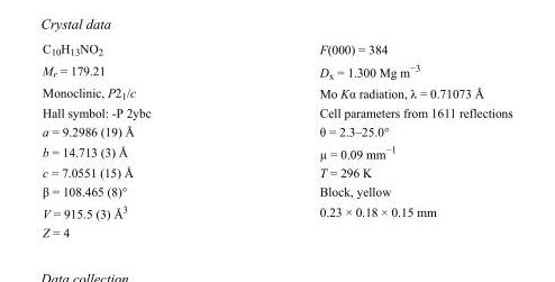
<table><tbody><tr><td>C<sub>10</sub>H<sub>13</sub>NO<sub>2</sub></td><td>F(000) = 384</td></tr><tr><td>M<sub>r</sub> = 179.21</td><td>D<sub>x</sub> = 1.300 Mg m<sup>−3</sup></td></tr><tr><td>Monoclinic, P2<sub>1</sub>/c</td><td>Mo Kα radiation, λ = 0.71073 Å</td></tr><tr><td>Hall symbol: -P 2ybc</td><td>Cell parameters from 1611 reflections</td></tr><tr><td>a = 9.2986 (19) Å</td><td>θ = 2.3–25.0°</td></tr><tr><td>b = 14.713 (3) Å</td><td>µ = 0.09 mm<sup>−1</sup></td></tr><tr><td>c = 7.0551 (15) Å</td><td>T = 296 K</td></tr><tr><td>β = 108.465 (8)°</td><td>Block, yellow</td></tr><tr><td>V = 915.5 (3) Å<sup>3</sup></td><td>0.23 × 0.18 × 0.15 mm</td></tr><tr><td>Z = 4</td><td></td></tr></tbody></table>